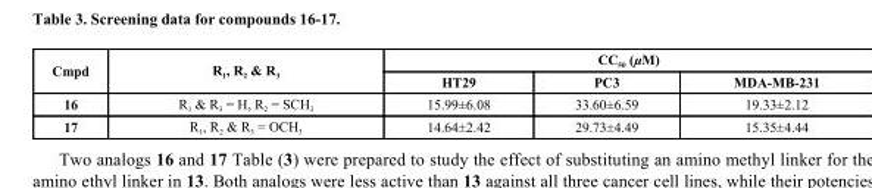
<table><thead><tr><td rowspan="2">Cmpd</td><td rowspan="2">R<sub>1</sub>, R<sub>2</sub> &amp; R<sub>3</sub></td><td colspan="3">CC<sub>50</sub> (µM)</td></tr><tr><td>HT29</td><td>PC3</td><td>MDA-MB-231</td></tr></thead><tbody><tr><td>16</td><td>R<sub>1</sub> &amp; R<sub>3</sub> = H, R<sub>2</sub> = SCH<sub>3</sub></td><td>15.99±6.08</td><td>33.60±6.59</td><td>19.33±2.12</td></tr><tr><td>17</td><td>R<sub>1</sub>, R<sub>2</sub> &amp; R<sub>3</sub> = OCH<sub>3</sub></td><td>14.64±2.42</td><td>29.73±4.49</td><td>15.35±4.44</td></tr></tbody></table>